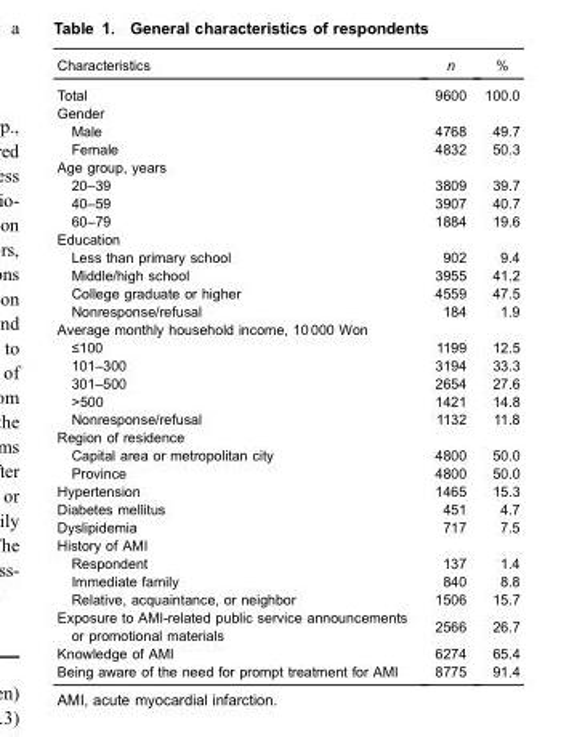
<table><thead><tr><td>Characteristics</td><td>n</td><td>%</td></tr></thead><tbody><tr><td>Total</td><td>9600</td><td>100.0</td></tr><tr><td colspan="3">Gender</td></tr><tr><td>Male</td><td>4768</td><td>49.7</td></tr><tr><td>Female</td><td>4832</td><td>50.3</td></tr><tr><td colspan="3">Age group, years</td></tr><tr><td>20–39</td><td>3809</td><td>39.7</td></tr><tr><td>40–59</td><td>3907</td><td>40.7</td></tr><tr><td>60–79</td><td>1884</td><td>19.6</td></tr><tr><td colspan="3">Education</td></tr><tr><td>Less than primary school</td><td>902</td><td>9.4</td></tr><tr><td>Middle/high school</td><td>3955</td><td>41.2</td></tr><tr><td>College graduate or higher</td><td>4559</td><td>47.5</td></tr><tr><td>Nonresponse/refusal</td><td>184</td><td>1.9</td></tr><tr><td colspan="3">Average monthly household income, 10 000 Won</td></tr><tr><td>≤100</td><td>1199</td><td>12.5</td></tr><tr><td>101–300</td><td>3194</td><td>33.3</td></tr><tr><td>301–500</td><td>2654</td><td>27.6</td></tr><tr><td>&gt;500</td><td>1421</td><td>14.8</td></tr><tr><td>Nonresponse/refusal</td><td>1132</td><td>11.8</td></tr><tr><td colspan="3">Region of residence</td></tr><tr><td>Capital area or metropolitan city</td><td>4800</td><td>50.0</td></tr><tr><td>Province</td><td>4800</td><td>50.0</td></tr><tr><td>Hypertension</td><td>1465</td><td>15.3</td></tr><tr><td>Diabetes mellitus</td><td>451</td><td>4.7</td></tr><tr><td>Dyslipidemia</td><td>717</td><td>7.5</td></tr><tr><td colspan="3">History of AMI</td></tr><tr><td>Respondent</td><td>137</td><td>1.4</td></tr><tr><td>Immediate family</td><td>840</td><td>8.8</td></tr><tr><td>Relative, acquaintance, or neighbor</td><td>1506</td><td>15.7</td></tr><tr><td>Exposure to AMI-related public service announcements or promotional materials</td><td>2566</td><td>26.7</td></tr><tr><td>Knowledge of AMI</td><td>6274</td><td>65.4</td></tr><tr><td>Being aware of the need for prompt treatment for AMI</td><td>8775</td><td>91.4</td></tr></tbody></table>